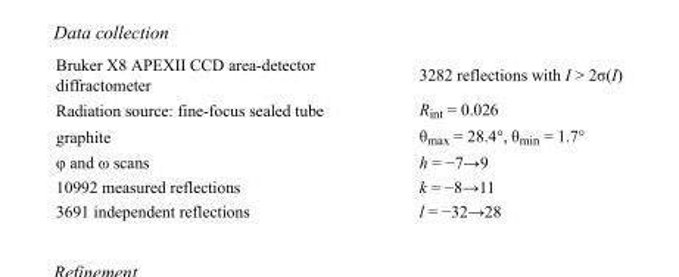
<table><tbody><tr><td>Bruker X8 APEXII CCD area-detector diffractometer</td><td>3282 reflections with I &gt; 2σ(I)</td></tr><tr><td>Radiation source: fine-focus sealed tube</td><td>R<sub>int</sub> = 0.026</td></tr><tr><td>graphite</td><td>θ<sub>max</sub> = 28.4°, θ<sub>min</sub> = 1.7°</td></tr><tr><td>φ and ω scans</td><td>h = −7→9</td></tr><tr><td>10992 measured reflections</td><td>k = −8→11</td></tr><tr><td>3691 independent reflections</td><td>l = −32→28</td></tr></tbody></table>